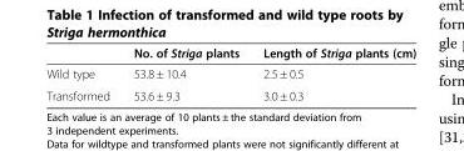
<table><thead><tr><td></td><td>No. of Striga plants</td><td>Length of Striga plants (cm)</td></tr></thead><tbody><tr><td>Wild type</td><td>53.8 ± 10.4</td><td>2.5 ± 0.5</td></tr><tr><td>Transformed</td><td>53.6 ± 9.3</td><td>3.0 ± 0.3</td></tr></tbody></table>